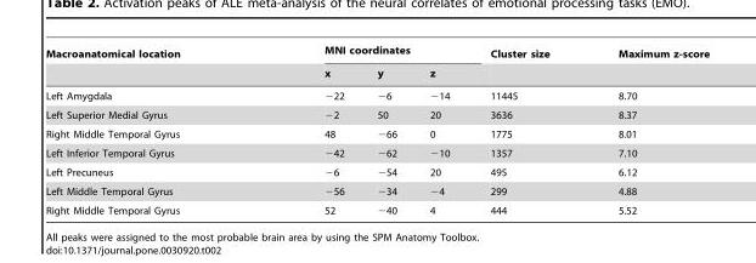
<table><thead><tr><td rowspan="2">Macroanatomical location</td><td colspan="3">MNI coordinates</td><td rowspan="2">Cluster size</td><td rowspan="2">Maximum z-score</td></tr><tr><td>x</td><td>y</td><td>z</td></tr></thead><tbody><tr><td>Left Amygdala</td><td>−22</td><td>−6</td><td>−14</td><td>11445</td><td>8.70</td></tr><tr><td>Left Superior Medial Gyrus</td><td>−2</td><td>50</td><td>20</td><td>3636</td><td>8.37</td></tr><tr><td>Right Middle Temporal Gyrus</td><td>48</td><td>−66</td><td>0</td><td>1775</td><td>8.01</td></tr><tr><td>Left Inferior Temporal Gyrus</td><td>−42</td><td>−62</td><td>−10</td><td>1357</td><td>7.10</td></tr><tr><td>Left Precuneus</td><td>−6</td><td>−54</td><td>20</td><td>495</td><td>6.12</td></tr><tr><td>Left Middle Temporal Gyrus</td><td>−56</td><td>−34</td><td>−4</td><td>299</td><td>4.88</td></tr><tr><td>Right Middle Temporal Gyrus</td><td>52</td><td>−40</td><td>4</td><td>444</td><td>5.52</td></tr></tbody></table>